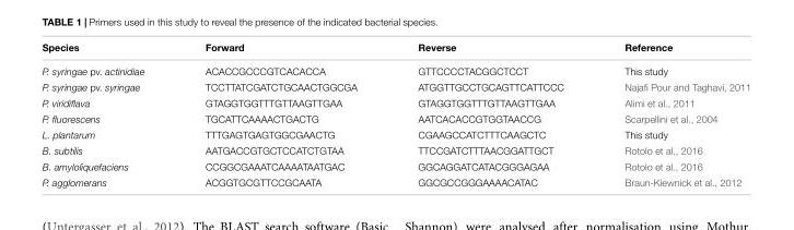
<table><thead><tr><td>Species</td><td>Forward</td><td>Reverse</td><td>Reference</td></tr></thead><tbody><tr><td>P. syringae pv. actinidiae</td><td>ACACCGCCCGTCACACCA</td><td>GTTCCCCTACGGCTCCT</td><td>This study</td></tr><tr><td>P. syringae pv. syringae</td><td>TCCTTATCGATCTGCAACTGGCGA</td><td>ATGGTTGCCTGCAGTTCATTCCC</td><td>Najafi Pour and Taghavi, 2011</td></tr><tr><td>P. viridiflava</td><td>GTAGGTGGTTTGTTAAGTTGAA</td><td>GTAGGTGGTTTGTTAAGTTGAA</td><td>Alimi et al., 2011</td></tr><tr><td>P. fluorescens</td><td>TGCATTCAAAACTGACTG</td><td>AATCACACCGTGGTAACCG</td><td>Scarpellini et al., 2004</td></tr><tr><td>L. plantarum</td><td>TTTGAGTGAGTGGCGAACTG</td><td>CGAAGCCATCTTTCAAGCTC</td><td>This study</td></tr><tr><td>B. subtilis</td><td>AATGACCGTGCTCCATCTGTAA</td><td>TTCCGATCTTTAACGGATTGCT</td><td>Rotolo et al., 2016</td></tr><tr><td>B. amyloliquefaciens</td><td>CCGGCGAAATCAAAATAATGAC</td><td>GGCAGGATCATACGGGAGAA</td><td>Rotolo et al., 2016</td></tr><tr><td>P. agglomerans</td><td>ACGGTGCGTTCCGCAATA</td><td>GGCGCCGGGAAAACATAC</td><td>Braun-Kiewnick et al., 2012</td></tr></tbody></table>